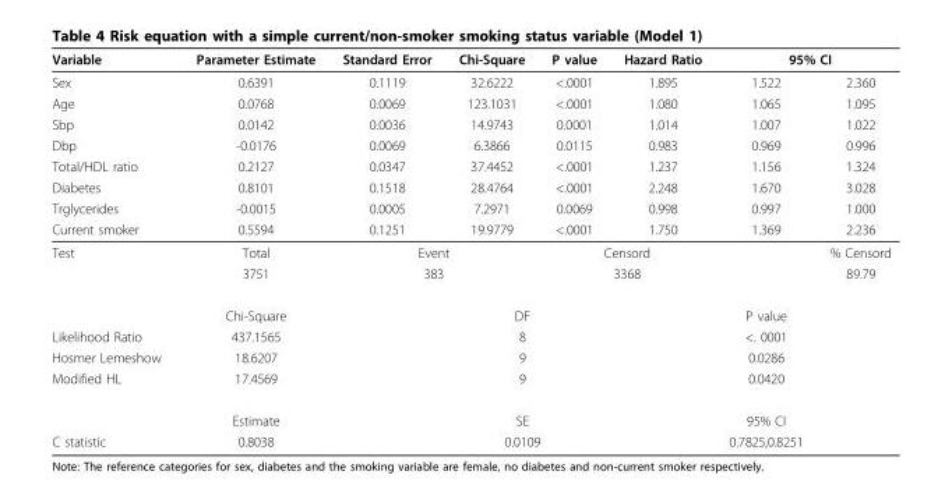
<table><thead><tr><td rowspan="2">Variable Sex</td><td rowspan="2">Parameter Estimate 0.6391</td><td rowspan="2">Standard Error 0.1119</td><td rowspan="2">Chi-Square 32.6222</td><td rowspan="2">P value &lt;.0001</td><td rowspan="2">Hazard Ratio 1.895</td><td colspan="2">95% CI</td></tr><tr><td>1.522</td><td>2.360</td></tr></thead><tbody><tr><td>Age</td><td>0.0768</td><td>0.0069</td><td>123.1031</td><td>&lt;.0001</td><td>1.080</td><td>1.065</td><td>1.095</td></tr><tr><td>Sbp</td><td>0.0142</td><td>0.0036</td><td>14.9743</td><td>0.0001</td><td>1.014</td><td>1.007</td><td>1.022</td></tr><tr><td>Dbp</td><td>-0.0176</td><td>0.0069</td><td>6.3866</td><td>0.0115</td><td>0.983</td><td>0.969</td><td>0.996</td></tr><tr><td>Total/HDL ratio</td><td>0.2127</td><td>0.0347</td><td>37.4452</td><td>&lt;.0001</td><td>1.237</td><td>1.156</td><td>1.324</td></tr><tr><td>Diabetes</td><td>0.8101</td><td>0.1518</td><td>28.4764</td><td>&lt;.0001</td><td>2.248</td><td>1.670</td><td>3.028</td></tr><tr><td>Trglycerides</td><td>-0.0015</td><td>0.0005</td><td>7.2971</td><td>0.0069</td><td>0.998</td><td>0.997</td><td>1.000</td></tr><tr><td>Current smoker</td><td>0.5594</td><td>0.1251</td><td>19.9779</td><td>&lt;.0001</td><td>1.750</td><td>1.369</td><td>2.236</td></tr><tr><td rowspan="3">Test</td><td>Total</td><td colspan="2">Event</td><td colspan="2">Censord</td><td></td><td>% Censord</td></tr><tr><td>3751</td><td colspan="2">383</td><td colspan="2">3368</td><td></td><td>89.79</td></tr><tr><td>Chi-Square</td><td colspan="4">DF</td><td>P value</td><td></td></tr><tr><td>Likelihood Ratio</td><td>437.1565</td><td colspan="4">8</td><td>&lt;. 0001</td><td></td></tr><tr><td>Hosmer Lemeshow</td><td>18.6207</td><td colspan="4">9</td><td>0.0286</td><td></td></tr><tr><td rowspan="2">Modified HL</td><td>17.4569</td><td colspan="4">9</td><td>0.0420</td><td></td></tr><tr><td>Estimate</td><td colspan="4">SE</td><td>95% CI</td><td></td></tr><tr><td>C statistic</td><td>0.8038</td><td colspan="4">0.0109</td><td>0.7825,0.8251</td><td></td></tr></tbody></table>